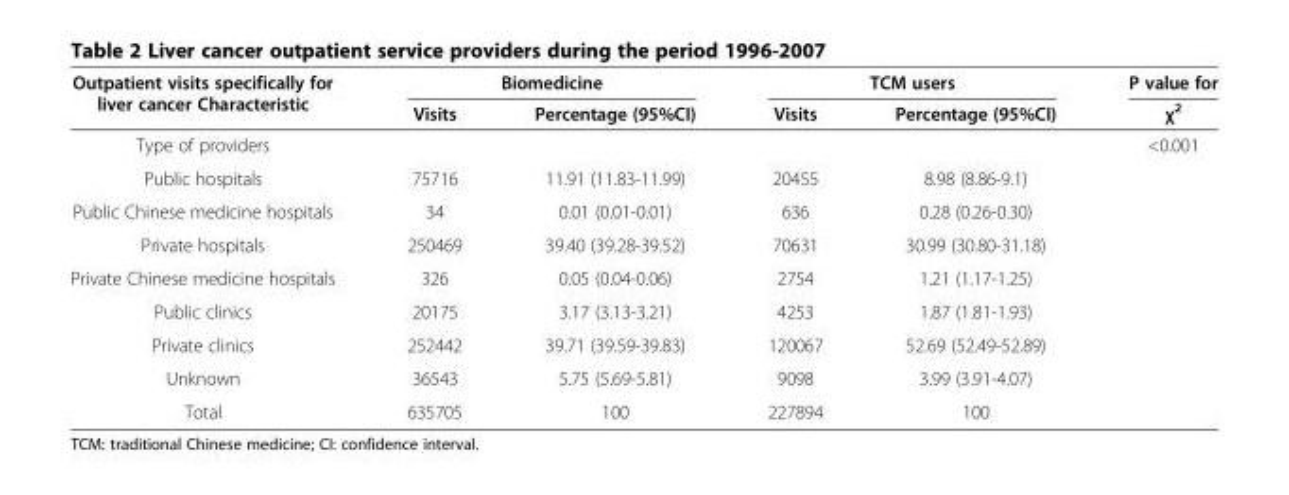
<table><thead><tr><td rowspan="2">Outpatient visits specifically for liver cancer Characteristic</td><td colspan="2">Biomedicine</td><td colspan="2">TCM users</td><td rowspan="2">P value for χ<sup>2</sup></td></tr><tr><td>Visits</td><td>Percentage (95%CI)</td><td>Visits</td><td>Percentage (95%CI)</td></tr></thead><tbody><tr><td>Type of providers</td><td></td><td></td><td></td><td></td><td>&lt;0.001</td></tr><tr><td>Public hospitals</td><td>75716</td><td>11.91 (11.83-11.99)</td><td>20455</td><td>8.98 (8.86-9.1)</td><td></td></tr><tr><td>Public Chinese medicine hospitals</td><td>34</td><td>0.01 (0.01-0.01)</td><td>636</td><td>0.28 (0.26-0.30)</td><td></td></tr><tr><td>Private hospitals</td><td>250469</td><td>39.40 (39.28-39.52)</td><td>70631</td><td>30.99 (30.80-31.18)</td><td></td></tr><tr><td>Private Chinese medicine hospitals</td><td>326</td><td>0.05 (0.04-0.06)</td><td>2754</td><td>1.21 (1.17-1.25)</td><td></td></tr><tr><td>Public clinics</td><td>20175</td><td>3.17 (3.13-3.21)</td><td>4253</td><td>1.87 (1.81-1.93)</td><td></td></tr><tr><td>Private clinics</td><td>252442</td><td>39.71 (39.59-39.83)</td><td>120067</td><td>52.69 (52.49-52.89)</td><td></td></tr><tr><td>Unknown</td><td>36543</td><td>5.75 (5.69-5.81)</td><td>9098</td><td>3.99 (3.91-4.07)</td><td></td></tr><tr><td>Total</td><td>635705</td><td>100</td><td>227894</td><td>100</td><td></td></tr></tbody></table>